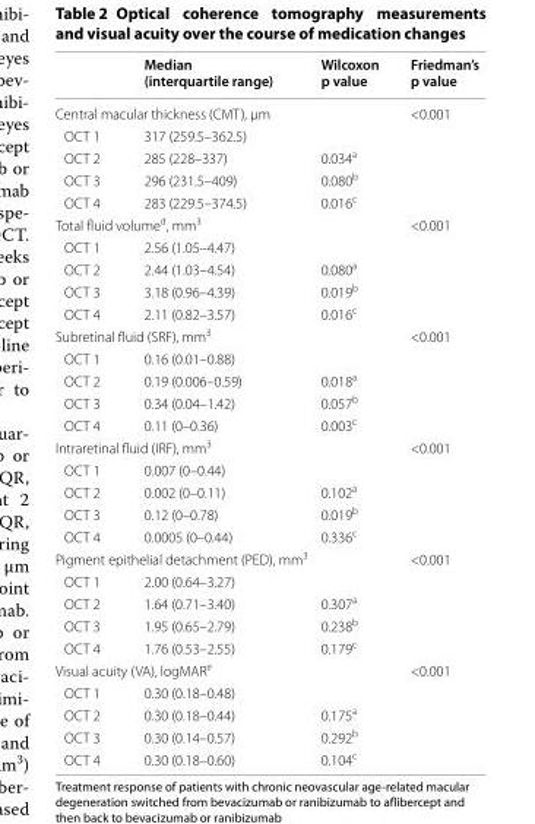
<table><thead><tr><td></td><td>Median (interquartile range)</td><td>Wilcoxon p value</td><td>Friedman’s p value</td></tr></thead><tbody><tr><td colspan="3">Central macular thickness (CMT), μm</td><td>&lt;0.001</td></tr><tr><td>OCT 1</td><td colspan="3">317 (259.5–362.5)</td></tr><tr><td>OCT 2</td><td>285 (228–337)</td><td colspan="2">0.034<sup>a</sup></td></tr><tr><td>OCT 3</td><td>296 (231.5–409)</td><td colspan="2">0.080<sup>b</sup></td></tr><tr><td>OCT 4</td><td>283 (229.5–374.5)</td><td colspan="2">0.016<sup>c</sup></td></tr><tr><td colspan="3">Total fluid volume<sup>d</sup>, mm<sup>3</sup></td><td>&lt;0.001</td></tr><tr><td>OCT 1</td><td>2.56 (1.05–4.47)</td><td></td><td></td></tr><tr><td>OCT 2</td><td>2.44 (1.03–4.54)</td><td>0.080<sup>a</sup></td><td></td></tr><tr><td>OCT 3</td><td>3.18 (0.96–4.39)</td><td>0.019<sup>b</sup></td><td></td></tr><tr><td>OCT 4</td><td>2.11 (0.82–3.57)</td><td>0.016<sup>c</sup></td><td></td></tr><tr><td colspan="3">Subretinal fluid (SRF), mm<sup>3</sup></td><td>&lt;0.001</td></tr><tr><td>OCT 1</td><td>0.16 (0.01–0.88)</td><td></td><td></td></tr><tr><td>OCT 2</td><td>0.19 (0.006–0.59)</td><td>0.018<sup>a</sup></td><td></td></tr><tr><td>OCT 3</td><td>0.34 (0.04–1.42)</td><td>0.057<sup>b</sup></td><td></td></tr><tr><td>OCT 4</td><td>0.11 (0–0.36)</td><td>0.003<sup>c</sup></td><td></td></tr><tr><td colspan="3">Intraretinal fluid (IRF), mm<sup>3</sup></td><td>&lt;0.001</td></tr><tr><td>OCT 1</td><td>0.007 (0–0.44)</td><td></td><td></td></tr><tr><td>OCT 2</td><td>0.002 (0–0.11)</td><td>0.102<sup>a</sup></td><td></td></tr><tr><td>OCT 3</td><td>0.12 (0–0.78)</td><td>0.019<sup>b</sup></td><td></td></tr><tr><td>OCT 4</td><td>0.0005 (0–0.44)</td><td>0.336<sup>c</sup></td><td></td></tr><tr><td colspan="3">Pigment epithelial detachment (PED), mm<sup>3</sup></td><td>&lt;0.001</td></tr><tr><td>OCT 1</td><td colspan="3">2.00 (0.64–3.27)</td></tr><tr><td>OCT 2</td><td>1.64 (0.71–3.40)</td><td colspan="2">0.307<sup>a</sup></td></tr><tr><td>OCT 3</td><td>1.95 (0.65–2.79)</td><td colspan="2">0.238<sup>b</sup></td></tr><tr><td>OCT 4</td><td>1.76 (0.53–2.55)</td><td colspan="2">0.179<sup>c</sup></td></tr><tr><td colspan="3">Visual acuity (VA), logMAR<sup>e</sup></td><td>&lt;0.001</td></tr><tr><td>OCT 1</td><td colspan="3">0.30 (0.18–0.48)</td></tr><tr><td>OCT 2</td><td>0.30 (0.18–0.44)</td><td colspan="2">0.175<sup>a</sup></td></tr><tr><td>OCT 3</td><td>0.30 (0.14–0.57)</td><td colspan="2">0.292<sup>b</sup></td></tr><tr><td>OCT 4</td><td>0.30 (0.18–0.60)</td><td colspan="2">0.104<sup>c</sup></td></tr></tbody></table>